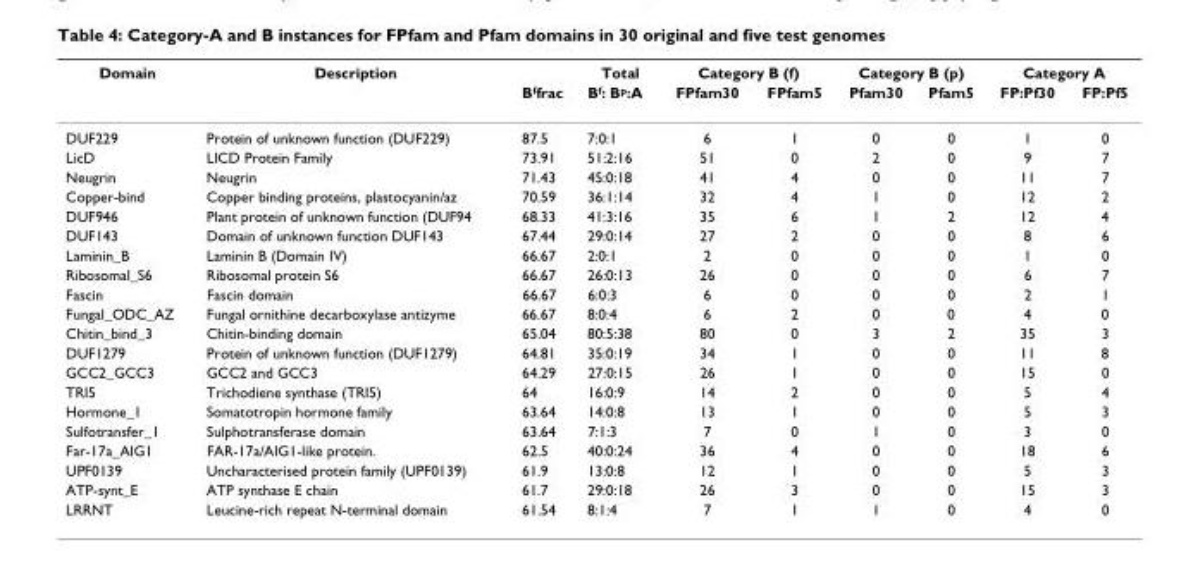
<table><thead><tr><td rowspan="2">Domain</td><td rowspan="2">Description</td><td rowspan="2">Bffrac</td><td rowspan="2">Total Bf: Bp:A</td><td colspan="2">Category B (f)</td><td colspan="2">Category B (p)</td><td colspan="2">Category A</td></tr><tr><td>FPfam30</td><td>FPfam5</td><td>Pfam30</td><td>Pfam5</td><td>FP:Pf30</td><td>FP:Pf5</td></tr></thead><tbody><tr><td>DUF229</td><td>Protein of unknown function (DUF229)</td><td>87.5</td><td>7:0:1</td><td>6</td><td>1</td><td>0</td><td>0</td><td>1</td><td>0</td></tr><tr><td>LicD</td><td>LICD Protein Family</td><td>73.91</td><td>51:2:16</td><td>51</td><td>0</td><td>2</td><td>0</td><td>9</td><td>7</td></tr><tr><td>Neugrin</td><td>Neugrin</td><td>71.43</td><td>45:0:18</td><td>41</td><td>4</td><td>0</td><td>0</td><td>11</td><td>7</td></tr><tr><td>Copper-bind</td><td>Copper binding proteins, plastocyanin/az</td><td>70.59</td><td>36:1:14</td><td>32</td><td>4</td><td>1</td><td>0</td><td>12</td><td>2</td></tr><tr><td>DUF946</td><td>Plant protein of unknown function (DUF94</td><td>68.33</td><td>41:3:16</td><td>35</td><td>6</td><td>1</td><td>2</td><td>12</td><td>4</td></tr><tr><td>DUF143</td><td>Domain of unknown function DUF143</td><td>67.44</td><td>29:0:14</td><td>27</td><td>2</td><td>0</td><td>0</td><td>8</td><td>6</td></tr><tr><td>Laminin_B</td><td>Laminin B (Domain IV)</td><td>66.67</td><td>2:0:1</td><td>2</td><td>0</td><td>0</td><td>0</td><td>1</td><td>0</td></tr><tr><td>Ribosomal_S6</td><td>Ribosomal protein S6</td><td>66.67</td><td>26:0:13</td><td>26</td><td>0</td><td>0</td><td>0</td><td>6</td><td>7</td></tr><tr><td>Fascin</td><td>Fascin domain</td><td>66.67</td><td>6:0:3</td><td>6</td><td>0</td><td>0</td><td>0</td><td>2</td><td>1</td></tr><tr><td>Fungal_ODC_AZ</td><td>Fungal ornithine decarboxylase antizyme</td><td>66.67</td><td>8:0:4</td><td>6</td><td>2</td><td>0</td><td>0</td><td>4</td><td>0</td></tr><tr><td>Chitin_bind_3</td><td>Chitin-binding domain</td><td>65.04</td><td>80:5:38</td><td>80</td><td>0</td><td>3</td><td>2</td><td>35</td><td>3</td></tr><tr><td>DUF1279</td><td>Protein of unknown function (DUF1279)</td><td>64.81</td><td>35:0:19</td><td>34</td><td>1</td><td>0</td><td>0</td><td>11</td><td>8</td></tr><tr><td>GCC2_GCC3</td><td>GCC2 and GCC3</td><td>64.29</td><td>27:0:15</td><td>26</td><td>1</td><td>0</td><td>0</td><td>15</td><td>0</td></tr><tr><td>TRI5</td><td>Trichodiene synthase (TRI5)</td><td>64</td><td>16:0:9</td><td>14</td><td>2</td><td>0</td><td>0</td><td>5</td><td>4</td></tr><tr><td>Hormone_1</td><td>Somatotropin hormone family</td><td>63.64</td><td>14:0:8</td><td>13</td><td>1</td><td>0</td><td>0</td><td>5</td><td>3</td></tr><tr><td>Sulfotransfer_1</td><td>Sulphotransferase domain</td><td>63.64</td><td>7:1:3</td><td>7</td><td>0</td><td>1</td><td>0</td><td>3</td><td>0</td></tr><tr><td>Far-17a_AIG1</td><td>FAR-17a/AIG1-like protein.</td><td>62.5</td><td>40:0:24</td><td>36</td><td>4</td><td>0</td><td>0</td><td>18</td><td>6</td></tr><tr><td>UPF0139</td><td>Uncharacterised protein family (UPF0139)</td><td>61.9</td><td>13:0:8</td><td>12</td><td>1</td><td>0</td><td>0</td><td>5</td><td>3</td></tr><tr><td>ATP-synt_E</td><td>ATP synthase E chain</td><td>61.7</td><td>29:0:18</td><td>26</td><td>3</td><td>0</td><td>0</td><td>15</td><td>3</td></tr><tr><td>LRRNT</td><td>Leucine-rich repeat N-terminal domain</td><td>61.54</td><td>8:1:4</td><td>7</td><td>1</td><td>1</td><td>0</td><td>4</td><td>0</td></tr></tbody></table>